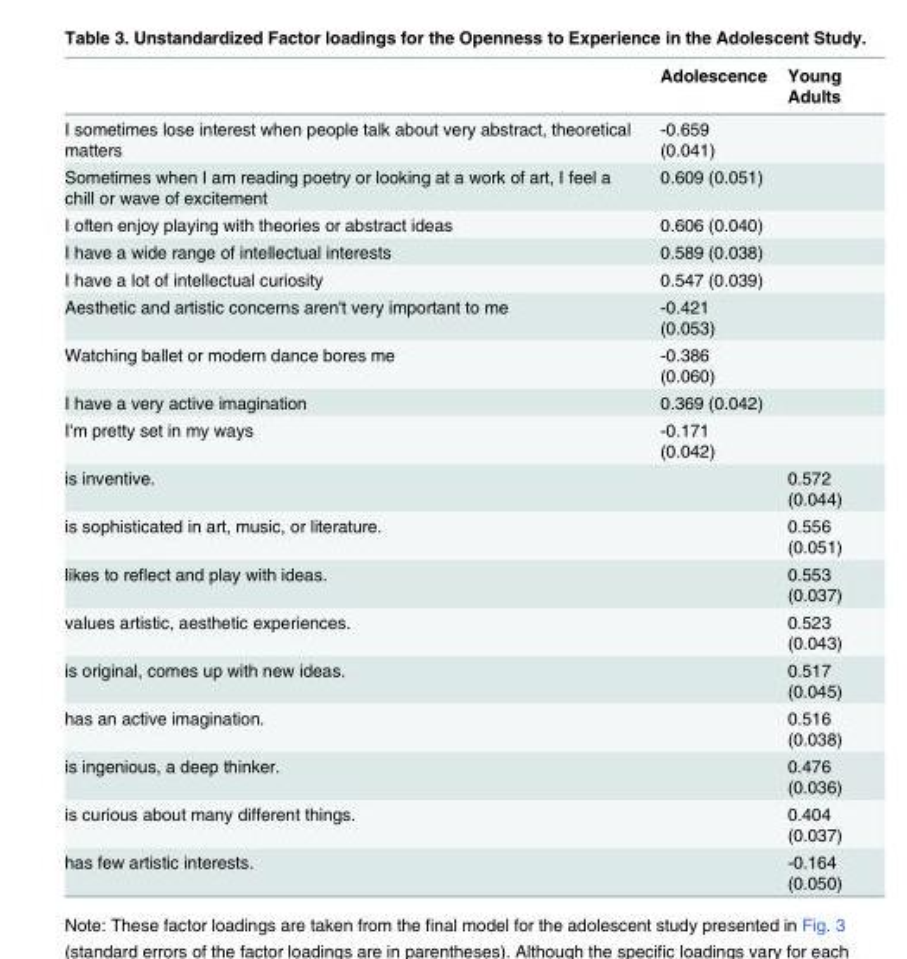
<table><thead><tr><td></td><td>Adolescence</td><td>Young Adults</td></tr></thead><tbody><tr><td>I sometimes lose interest when people talk about very abstract, theoretical matters</td><td>-0.659 (0.041)</td><td></td></tr><tr><td>Sometimes when I am reading poetry or looking at a work of art, I feel a chill or wave of excitement</td><td>0.609 (0.051)</td><td></td></tr><tr><td>I often enjoy playing with theories or abstract ideas</td><td>0.606 (0.040)</td><td></td></tr><tr><td>I have a wide range of intellectual interests</td><td>0.589 (0.038)</td><td></td></tr><tr><td>I have a lot of intellectual curiosity</td><td>0.547 (0.039)</td><td></td></tr><tr><td>Aesthetic and artistic concerns aren&#x27;t very important to me</td><td>-0.421 (0.053)</td><td></td></tr><tr><td>Watching ballet or modern dance bores me</td><td>-0.386 (0.060)</td><td></td></tr><tr><td>I have a very active imagination</td><td>0.369 (0.042)</td><td></td></tr><tr><td>I&#x27;m pretty set in my ways</td><td>-0.171 (0.042)</td><td></td></tr><tr><td>is inventive.</td><td></td><td>0.572 (0.044)</td></tr><tr><td>is sophisticated in art, music, or literature.</td><td></td><td>0.556 (0.051)</td></tr><tr><td>likes to reflect and play with ideas.</td><td></td><td>0.553 (0.037)</td></tr><tr><td>values artistic, aesthetic experiences.</td><td></td><td>0.523 (0.043)</td></tr><tr><td>is original, comes up with new ideas.</td><td></td><td>0.517 (0.045)</td></tr><tr><td>has an active imagination.</td><td></td><td>0.516 (0.038)</td></tr><tr><td>is ingenious, a deep thinker.</td><td></td><td>0.476 (0.036)</td></tr><tr><td>is curious about many different things.</td><td></td><td>0.404 (0.037)</td></tr><tr><td>has few artistic interests.</td><td></td><td>-0.164 (0.050)</td></tr></tbody></table>